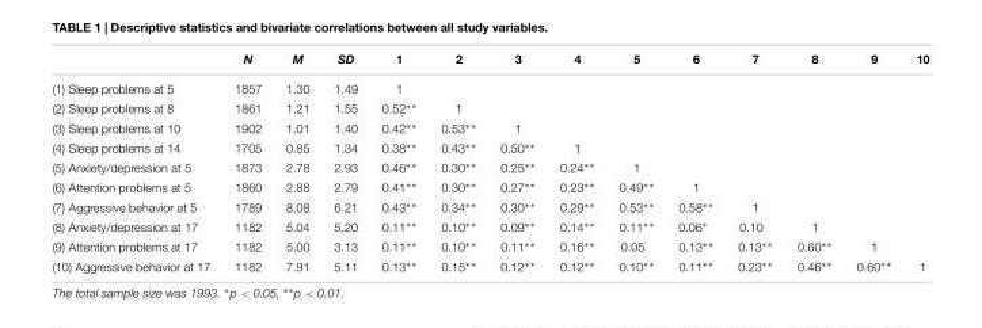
<table><thead><tr><td></td><td>N</td><td>M</td><td>SD</td><td>1</td><td>2</td><td>3</td><td>4</td><td>5</td><td>6</td><td>7</td><td>8</td><td>9</td><td>10</td></tr></thead><tbody><tr><td>(1) Sleep problems at 5</td><td>1857</td><td>1.30</td><td>1.49</td><td>1</td><td></td><td></td><td></td><td></td><td></td><td></td><td></td><td></td><td></td></tr><tr><td>(2) Sleep problems at 8</td><td>1861</td><td>1.21</td><td>1.55</td><td>0.52∗∗</td><td>1</td><td></td><td></td><td></td><td></td><td></td><td></td><td></td><td></td></tr><tr><td>(3) Sleep problems at 10</td><td>1902</td><td>1.01</td><td>1.40</td><td>0.42∗∗</td><td>0.53∗∗</td><td>1</td><td></td><td></td><td></td><td></td><td></td><td></td><td></td></tr><tr><td>(4) Sleep problems at 14</td><td>1705</td><td>0.85</td><td>1.34</td><td>0.38∗∗</td><td>0.43∗∗</td><td>0.50∗∗</td><td>1</td><td></td><td></td><td></td><td></td><td></td><td></td></tr><tr><td>(5) Anxiety/depression at 5</td><td>1873</td><td>2.78</td><td>2.93</td><td>0.46∗∗</td><td>0.30∗∗</td><td>0.25∗∗</td><td>0.24∗∗</td><td>1</td><td></td><td></td><td></td><td></td><td></td></tr><tr><td>(6) Attention problems at 5</td><td>1860</td><td>2.88</td><td>2.79</td><td>0.41∗∗</td><td>0.30∗∗</td><td>0.27∗∗</td><td>0.23∗∗</td><td>0.49∗∗</td><td>1</td><td></td><td></td><td></td><td></td></tr><tr><td>(7) Aggressive behavior at 5</td><td>1789</td><td>8.08</td><td>6.21</td><td>0.43∗∗</td><td>0.34∗∗</td><td>0.30∗∗</td><td>0.29∗∗</td><td>0.53∗∗</td><td>0.58∗∗</td><td>1</td><td></td><td></td><td></td></tr><tr><td>(8) Anxiety/depression at 17</td><td>1182</td><td>5.04</td><td>5.20</td><td>0.11∗∗</td><td>0.10∗∗</td><td>0.09∗∗</td><td>0.14∗∗</td><td>0.11∗∗</td><td>0.06∗</td><td>0.10</td><td>1</td><td></td><td></td></tr><tr><td>(9) Attention problems at 17</td><td>1182</td><td>5.00</td><td>3.13</td><td>0.11∗∗</td><td>0.10∗∗</td><td>0.11∗∗</td><td>0.16∗∗</td><td>0.05</td><td>0.13∗∗</td><td>0.13∗∗</td><td>0.60∗∗</td><td>1</td><td></td></tr><tr><td>(10) Aggressive behavior at 17</td><td>1182</td><td>7.91</td><td>5.11</td><td>0.13∗∗</td><td>0.15∗∗</td><td>0.12∗∗</td><td>0.12∗∗</td><td>0.10∗∗</td><td>0.11∗∗</td><td>0.23∗∗</td><td>0.46∗∗</td><td>0.60∗∗</td><td>1</td></tr></tbody></table>